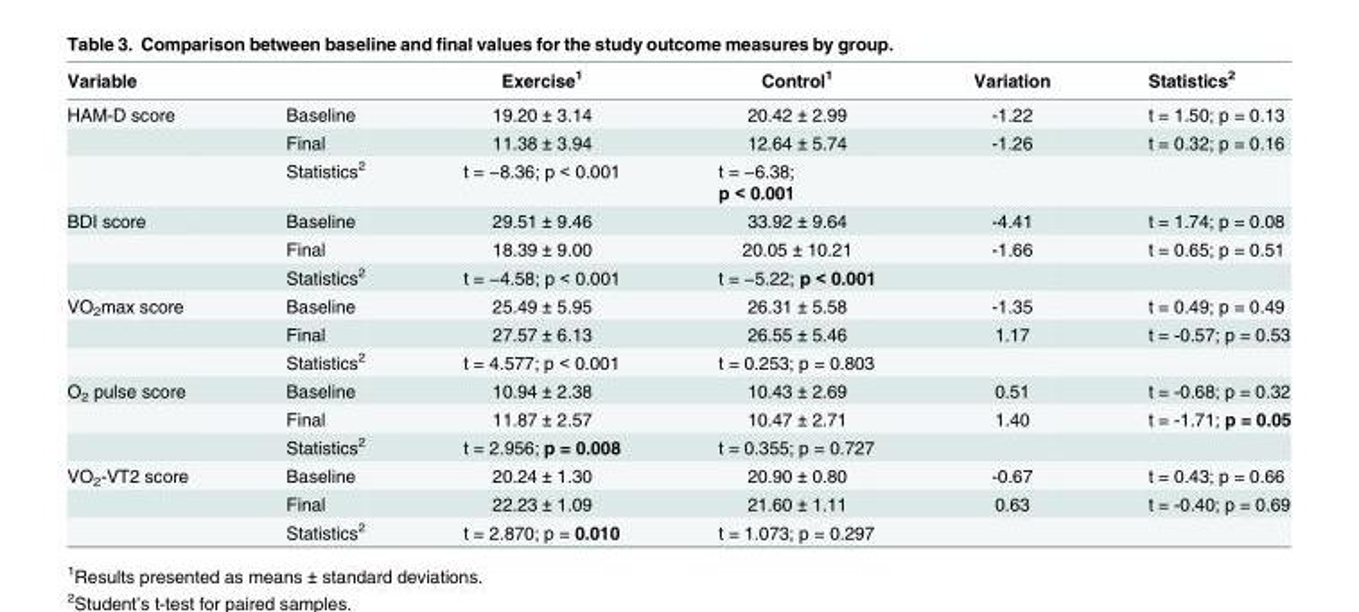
<table><thead><tr><td>Variable</td><td></td><td>Exercise<sup>1</sup></td><td>Control<sup>1</sup></td><td>Variation</td><td>Statistics<sup>2</sup></td></tr></thead><tbody><tr><td rowspan="3">HAM-D score</td><td>Baseline</td><td>19.20 ± 3.14</td><td>20.42 ± 2.99</td><td>-1.22</td><td>t = 1.50; p = 0.13</td></tr><tr><td>Final</td><td>11.38 ± 3.94</td><td>12.64 ± 5.74</td><td>-1.26</td><td>t = 0.32; p = 0.16</td></tr><tr><td>Statistics<sup>2</sup></td><td>t = −8.36; p &lt; 0.001</td><td>t = −6.38; p &lt; 0.001</td><td></td><td></td></tr><tr><td rowspan="3">BDI score</td><td>Baseline</td><td>29.51 ± 9.46</td><td>33.92 ± 9.64</td><td>-4.41</td><td>t = 1.74; p = 0.08</td></tr><tr><td>Final</td><td>18.39 ± 9.00</td><td>20.05 ± 10.21</td><td>-1.66</td><td>t = 0.65; p = 0.51</td></tr><tr><td>Statistics<sup>2</sup></td><td>t = −4.58; p &lt; 0.001</td><td>t = −5.22; p &lt; 0.001</td><td></td><td></td></tr><tr><td rowspan="3">VO<sub>2</sub>max score</td><td>Baseline</td><td>25.49 ± 5.95</td><td>26.31 ± 5.58</td><td>-1.35</td><td>t = 0.49; p = 0.49</td></tr><tr><td>Final</td><td>27.57 ± 6.13</td><td>26.55 ± 5.46</td><td>1.17</td><td>t = -0.57; p = 0.53</td></tr><tr><td>Statistics<sup>2</sup></td><td>t = 4.577; p &lt; 0.001</td><td>t = 0.253; p = 0.803</td><td></td><td></td></tr><tr><td rowspan="3">O<sub>2</sub> pulse score</td><td>Baseline</td><td>10.94 ± 2.38</td><td>10.43 ± 2.69</td><td>0.51</td><td>t = -0.68; p = 0.32</td></tr><tr><td>Final</td><td>11.87 ± 2.57</td><td>10.47 ± 2.71</td><td>1.40</td><td>t = -1.71; p = 0.05</td></tr><tr><td>Statistics<sup>2</sup></td><td>t = 2.956; p = 0.008</td><td>t = 0.355; p = 0.727</td><td></td><td></td></tr><tr><td rowspan="3">VO<sub>2</sub>-VT2 score</td><td>Baseline</td><td>20.24 ± 1.30</td><td>20.90 ± 0.80</td><td>-0.67</td><td>t = 0.43; p = 0.66</td></tr><tr><td>Final</td><td>22.23 ± 1.09</td><td>21.60 ± 1.11</td><td>0.63</td><td>t = -0.40; p = 0.69</td></tr><tr><td>Statistics<sup>2</sup></td><td>t = 2.870; p = 0.010</td><td>t = 1.073; p = 0.297</td><td></td><td></td></tr></tbody></table>